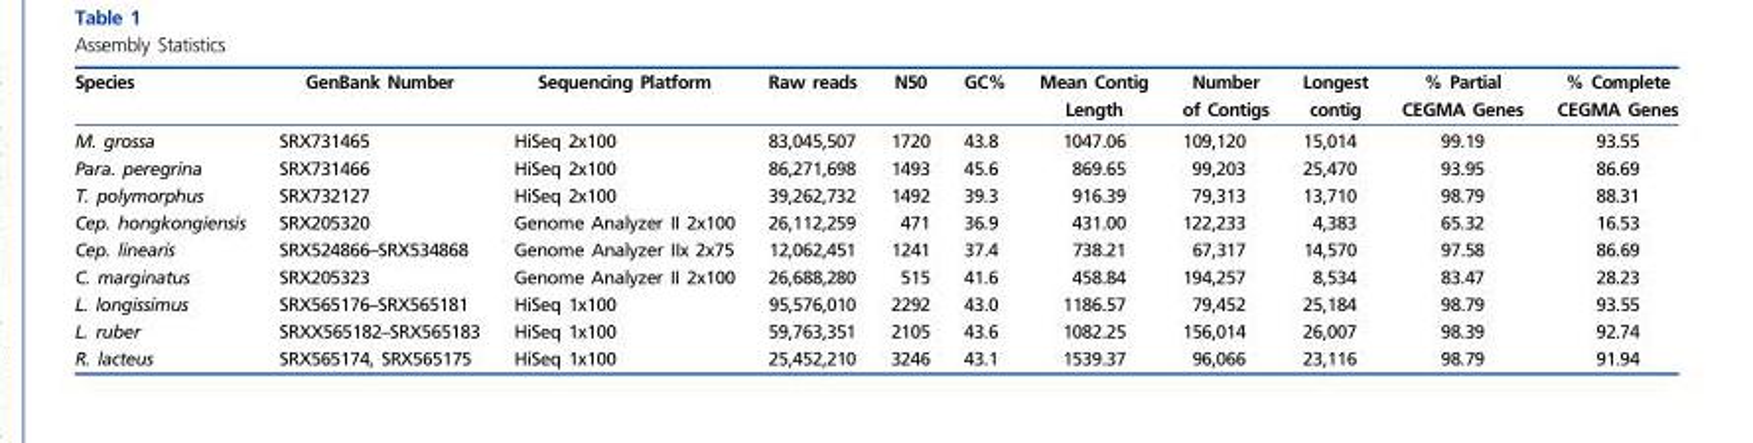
<table><thead><tr><td>Species</td><td>GenBank Number</td><td>Sequencing Platform</td><td>Raw reads</td><td>N50</td><td>GC%</td><td>Mean Contig Length</td><td>Number of Contigs</td><td>Longest contig</td><td>% Partial CEGMA Genes</td><td>% Complete CEGMA Genes</td></tr></thead><tbody><tr><td>M. grossa</td><td>SRX731465</td><td>HiSeq 2x100</td><td>83,045,507</td><td>1720</td><td>43.8</td><td>1047.06</td><td>109,120</td><td>15,014</td><td>99.19</td><td>93.55</td></tr><tr><td>Para. peregrina</td><td>SRX731466</td><td>HiSeq 2x100</td><td>86,271,698</td><td>1493</td><td>45.6</td><td>869.65</td><td>99,203</td><td>25,470</td><td>93.95</td><td>86.69</td></tr><tr><td>T. polymorphus</td><td>SRX732127</td><td>HiSeq 2x100</td><td>39,262,732</td><td>1492</td><td>39.3</td><td>916.39</td><td>79,313</td><td>13,710</td><td>98.79</td><td>88.31</td></tr><tr><td>Cep. hongkongiensis</td><td>SRX205320</td><td>Genome Analyzer II 2x100</td><td>26,112,259</td><td>471</td><td>36.9</td><td>431.00</td><td>122,233</td><td>4,383</td><td>65.32</td><td>16.53</td></tr><tr><td>Cep. linearis</td><td>SRX524866–SRX534868</td><td>Genome Analyzer IIx 2x75</td><td>12,062,451</td><td>1241</td><td>37.4</td><td>738.21</td><td>67,317</td><td>14,570</td><td>97.58</td><td>86.69</td></tr><tr><td>C. marginatus</td><td>SRX205323</td><td>Genome Analyzer II 2x100</td><td>26,688,280</td><td>515</td><td>41.6</td><td>458.84</td><td>194,257</td><td>8,534</td><td>83.47</td><td>28.23</td></tr><tr><td>L. longissimus</td><td>SRX565176–SRX565181</td><td>HiSeq 1x100</td><td>95,576,010</td><td>2292</td><td>43.0</td><td>1186.57</td><td>79,452</td><td>25,184</td><td>98.79</td><td>93.55</td></tr><tr><td>L. ruber</td><td>SRXX565182–SRX565183</td><td>HiSeq 1x100</td><td>59,763,351</td><td>2105</td><td>43.6</td><td>1082.25</td><td>156,014</td><td>26,007</td><td>98.39</td><td>92.74</td></tr><tr><td>R. lacteus</td><td>SRX565174, SRX565175</td><td>HiSeq 1x100</td><td>25,452,210</td><td>3246</td><td>43.1</td><td>1539.37</td><td>96,066</td><td>23,116</td><td>98.79</td><td>91.94</td></tr></tbody></table>